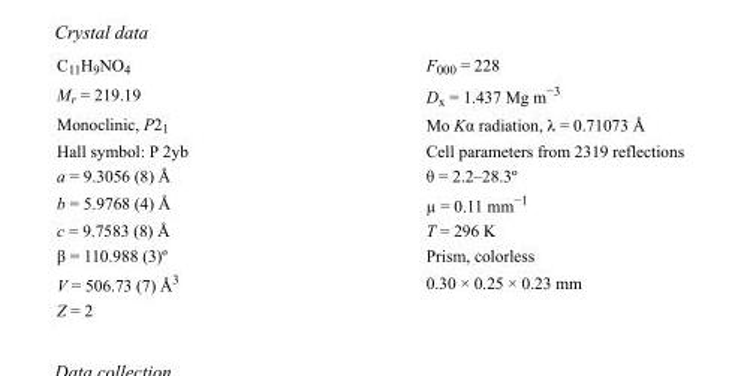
<table><tbody><tr><td>C<sub>11</sub>H<sub>9</sub>NO<sub>4</sub></td><td>F000 = 228</td></tr><tr><td>M<sub>r</sub> = 219.19</td><td>D<sub>x</sub> = 1.437 Mg m<sup>−3</sup></td></tr><tr><td>Monoclinic, P2<sub>1</sub></td><td>Mo Kα radiation, λ = 0.71073 Å</td></tr><tr><td>Hall symbol: P 2yb</td><td>Cell parameters from 2319 reflections</td></tr><tr><td>a = 9.3056 (8) Å</td><td>θ = 2.2–28.3º</td></tr><tr><td>b = 5.9768 (4) Å</td><td>µ = 0.11 mm<sup>−1</sup></td></tr><tr><td>c = 9.7583 (8) Å</td><td>T = 296 K</td></tr><tr><td>β = 110.988 (3)º</td><td>Prism, colorless</td></tr><tr><td>V = 506.73 (7) Å<sup>3</sup></td><td>0.30 × 0.25 × 0.23 mm</td></tr><tr><td>Z = 2</td><td></td></tr></tbody></table>